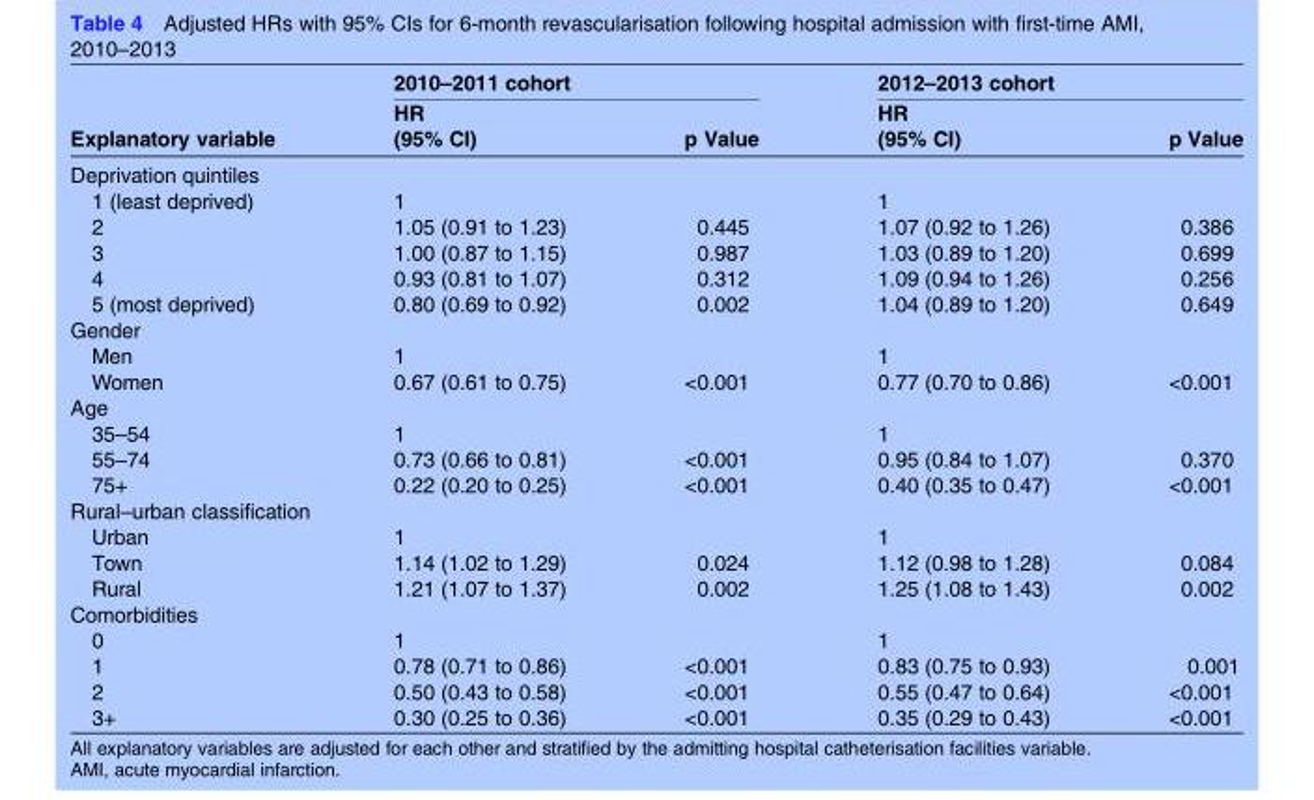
<table><thead><tr><td rowspan="2">Explanatory variable</td><td colspan="2">2010–2011 cohort</td><td colspan="2">2012–2013 cohort</td></tr><tr><td>HR (95% CI)</td><td>p Value</td><td>HR (95% CI)</td><td>p Value</td></tr></thead><tbody><tr><td colspan="5">Deprivation quintiles</td></tr><tr><td>1 (least deprived)</td><td>1</td><td></td><td>1</td><td></td></tr><tr><td>2</td><td>1.05 (0.91 to 1.23)</td><td>0.445</td><td>1.07 (0.92 to 1.26)</td><td>0.386</td></tr><tr><td>3</td><td>1.00 (0.87 to 1.15)</td><td>0.987</td><td>1.03 (0.89 to 1.20)</td><td>0.699</td></tr><tr><td>4</td><td>0.93 (0.81 to 1.07)</td><td>0.312</td><td>1.09 (0.94 to 1.26)</td><td>0.256</td></tr><tr><td>5 (most deprived)</td><td>0.80 (0.69 to 0.92)</td><td>0.002</td><td>1.04 (0.89 to 1.20)</td><td>0.649</td></tr><tr><td colspan="5">Gender</td></tr><tr><td>Men</td><td>1</td><td></td><td>1</td><td></td></tr><tr><td>Women</td><td>0.67 (0.61 to 0.75)</td><td>&lt;0.001</td><td>0.77 (0.70 to 0.86)</td><td>&lt;0.001</td></tr><tr><td colspan="5">Age</td></tr><tr><td>35–54</td><td>1</td><td></td><td>1</td><td></td></tr><tr><td>55–74</td><td>0.73 (0.66 to 0.81)</td><td>&lt;0.001</td><td>0.95 (0.84 to 1.07)</td><td>0.370</td></tr><tr><td>75+</td><td>0.22 (0.20 to 0.25)</td><td>&lt;0.001</td><td>0.40 (0.35 to 0.47)</td><td>&lt;0.001</td></tr><tr><td colspan="5">Rural–urban classification</td></tr><tr><td>Urban</td><td>1</td><td></td><td>1</td><td></td></tr><tr><td>Town</td><td>1.14 (1.02 to 1.29)</td><td>0.024</td><td>1.12 (0.98 to 1.28)</td><td>0.084</td></tr><tr><td>Rural</td><td>1.21 (1.07 to 1.37)</td><td>0.002</td><td>1.25 (1.08 to 1.43)</td><td>0.002</td></tr><tr><td colspan="5">Comorbidities</td></tr><tr><td>0</td><td>1</td><td></td><td>1</td><td></td></tr><tr><td>1</td><td>0.78 (0.71 to 0.86)</td><td>&lt;0.001</td><td>0.83 (0.75 to 0.93)</td><td>0.001</td></tr><tr><td>2</td><td>0.50 (0.43 to 0.58)</td><td>&lt;0.001</td><td>0.55 (0.47 to 0.64)</td><td>&lt;0.001</td></tr><tr><td>3+</td><td>0.30 (0.25 to 0.36)</td><td>&lt;0.001</td><td>0.35 (0.29 to 0.43)</td><td>&lt;0.001</td></tr></tbody></table>